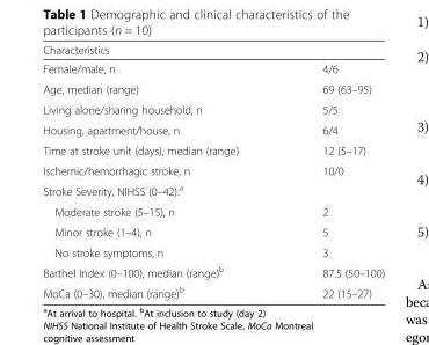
<table><thead><tr><td>Characteristics</td><td></td></tr></thead><tbody><tr><td>Female/male, n</td><td>4/6</td></tr><tr><td>Age, median (range)</td><td>69 (63–95)</td></tr><tr><td>Living alone/sharing household, n</td><td>5/5</td></tr><tr><td>Housing, apartment/house, n</td><td>6/4</td></tr><tr><td>Time at stroke unit (days), median (range)</td><td>12 (5–17)</td></tr><tr><td>Ischemic/hemorrhagic stroke, n</td><td>10/0</td></tr><tr><td colspan="2">Stroke Severity, NIHSS (0–42):<sup>a</sup></td></tr><tr><td>Moderate stroke (5–15), n</td><td>2</td></tr><tr><td>Minor stroke (1–4), n</td><td>5</td></tr><tr><td>No stroke symptoms, n</td><td>3</td></tr><tr><td>Barthel Index (0–100), median (range)<sup>b</sup></td><td>87.5 (50–100)</td></tr><tr><td>MoCa (0–30), median (range)<sup>b</sup></td><td>22 (15–27)</td></tr></tbody></table>